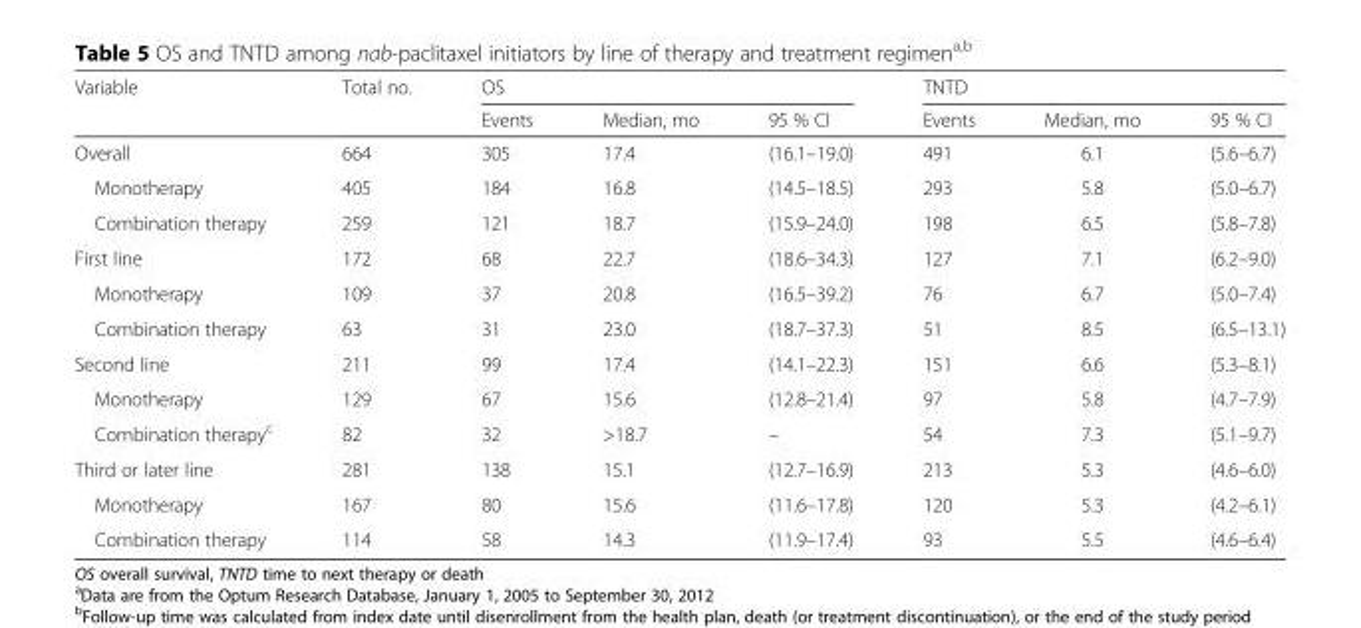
<table><thead><tr><td rowspan="2">Variable</td><td rowspan="2">Total no.</td><td colspan="3">OS</td><td colspan="3">TNTD</td></tr><tr><td>Events</td><td>Median, mo</td><td>95 % CI</td><td>Events</td><td>Median, mo</td><td>95 % CI</td></tr></thead><tbody><tr><td>Overall</td><td>664</td><td>305</td><td>17.4</td><td>(16.1–19.0)</td><td>491</td><td>6.1</td><td>(5.6–6.7)</td></tr><tr><td>Monotherapy</td><td>405</td><td>184</td><td>16.8</td><td>(14.5–18.5)</td><td>293</td><td>5.8</td><td>(5.0–6.7)</td></tr><tr><td>Combination therapy</td><td>259</td><td>121</td><td>18.7</td><td>(15.9–24.0)</td><td>198</td><td>6.5</td><td>(5.8–7.8)</td></tr><tr><td>First line</td><td>172</td><td>68</td><td>22.7</td><td>(18.6–34.3)</td><td>127</td><td>7.1</td><td>(6.2–9.0)</td></tr><tr><td>Monotherapy</td><td>109</td><td>37</td><td>20.8</td><td>(16.5–39.2)</td><td>76</td><td>6.7</td><td>(5.0–7.4)</td></tr><tr><td>Combination therapy</td><td>63</td><td>31</td><td>23.0</td><td>(18.7–37.3)</td><td>51</td><td>8.5</td><td>(6.5–13.1)</td></tr><tr><td>Second line</td><td>211</td><td>99</td><td>17.4</td><td>(14.1–22.3)</td><td>151</td><td>6.6</td><td>(5.3–8.1)</td></tr><tr><td>Monotherapy</td><td>129</td><td>67</td><td>15.6</td><td>(12.8–21.4)</td><td>97</td><td>5.8</td><td>(4.7–7.9)</td></tr><tr><td>Combination therapy<sup>c</sup></td><td>82</td><td>32</td><td>&gt;18.7</td><td>–</td><td>54</td><td>7.3</td><td>(5.1–9.7)</td></tr><tr><td>Third or later line</td><td>281</td><td>138</td><td>15.1</td><td>(12.7–16.9)</td><td>213</td><td>5.3</td><td>(4.6–6.0)</td></tr><tr><td>Monotherapy</td><td>167</td><td>80</td><td>15.6</td><td>(11.6–17.8)</td><td>120</td><td>5.3</td><td>(4.2–6.1)</td></tr><tr><td>Combination therapy</td><td>114</td><td>58</td><td>14.3</td><td>(11.9–17.4)</td><td>93</td><td>5.5</td><td>(4.6–6.4)</td></tr></tbody></table>